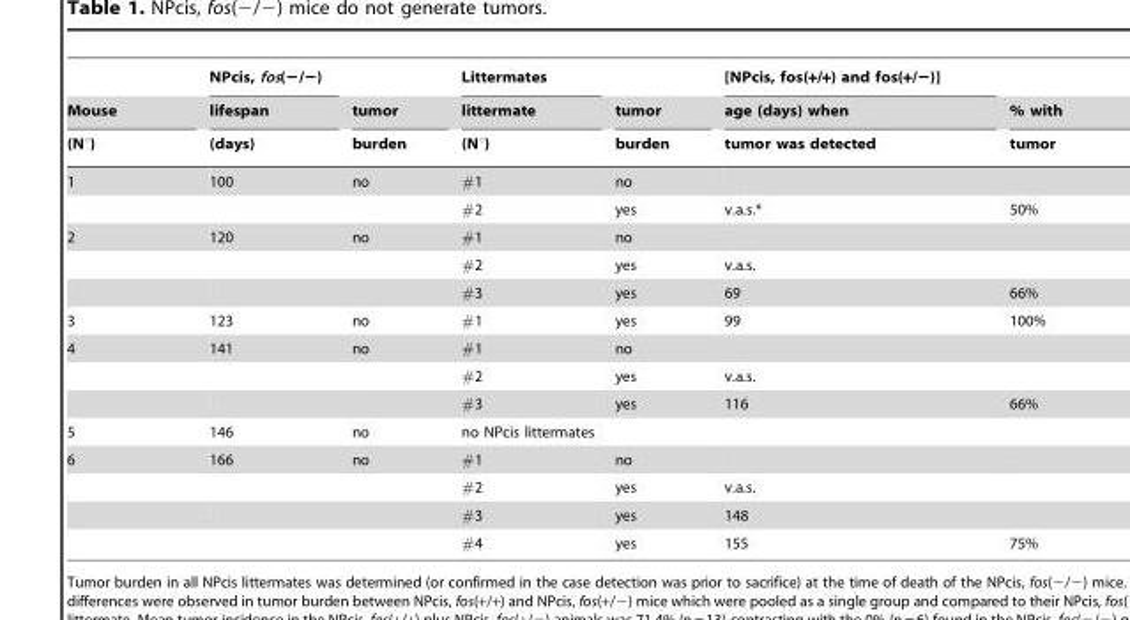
<table><thead><tr><td rowspan="3">Mouse (N°)</td><td rowspan="3">NPcis, fos(−/−) lifespan (days)</td><td rowspan="3">tumor burden</td><td rowspan="3">Littermates littermate (N°)</td><td rowspan="3">tumor burden</td><td rowspan="3">[NPcis, fos(+/+) and fos(+/−)] age (days) when tumor was detected</td><td rowspan="3">% with tumor</td></tr><tr></tr><tr></tr></thead><tbody><tr><td rowspan="2">1</td><td>100</td><td>no</td><td>#1</td><td>no</td><td></td><td></td></tr><tr><td></td><td></td><td>#2</td><td>yes</td><td>v.a.s.*</td><td>50%</td></tr><tr><td rowspan="3">2</td><td>120</td><td>no</td><td>#1</td><td>no</td><td></td><td></td></tr><tr><td></td><td></td><td>#2</td><td>yes</td><td>v.a.s.</td><td></td></tr><tr><td></td><td></td><td>#3</td><td>yes</td><td>69</td><td>66%</td></tr><tr><td>3</td><td>123</td><td>no</td><td>#1</td><td>yes</td><td>99</td><td>100%</td></tr><tr><td rowspan="3">4</td><td>141</td><td>no</td><td>#1</td><td>no</td><td></td><td></td></tr><tr><td></td><td></td><td>#2</td><td>yes</td><td>v.a.s.</td><td></td></tr><tr><td></td><td></td><td>#3</td><td>yes</td><td>116</td><td>66%</td></tr><tr><td>5</td><td>146</td><td>no</td><td colspan="2">no NPcis littermates</td><td></td><td></td></tr><tr><td rowspan="4">6</td><td>166</td><td>no</td><td>#1</td><td>no</td><td></td><td></td></tr><tr><td></td><td></td><td>#2</td><td>yes</td><td>v.a.s.</td><td></td></tr><tr><td></td><td></td><td>#3</td><td>yes</td><td>148</td><td></td></tr><tr><td></td><td></td><td>#4</td><td>yes</td><td>155</td><td>75%</td></tr></tbody></table>